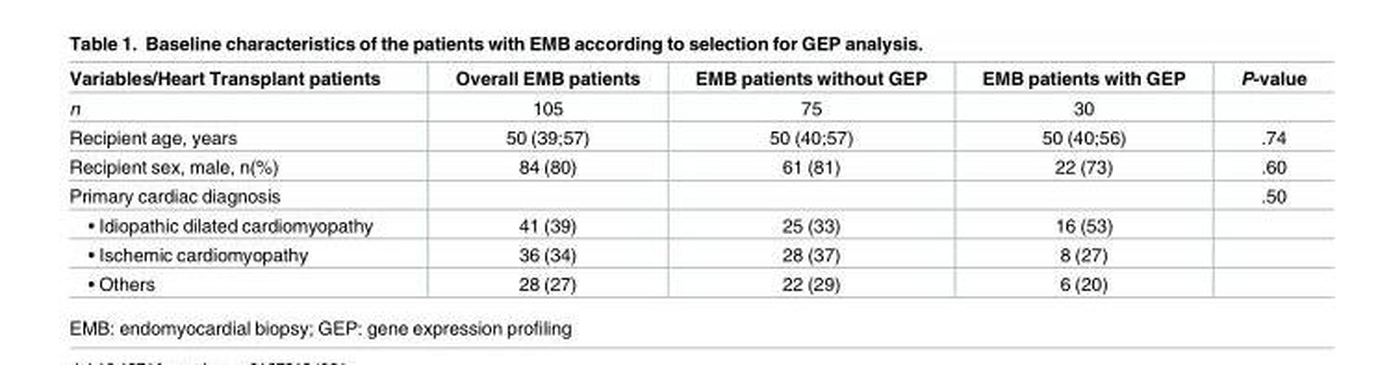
<table><thead><tr><td>Variables/Heart Transplant patients</td><td>Overall EMB patients</td><td>EMB patients without GEP</td><td>EMB patients with GEP</td><td>P-value</td></tr></thead><tbody><tr><td>n</td><td>105</td><td>75</td><td>30</td><td></td></tr><tr><td>Recipient age, years</td><td>50 (39;57)</td><td>50 (40;57)</td><td>50 (40;56)</td><td>.74</td></tr><tr><td>Recipient sex, male, n(%)</td><td>84 (80)</td><td>61 (81)</td><td>22 (73)</td><td>.60</td></tr><tr><td>Primary cardiac diagnosis</td><td></td><td></td><td></td><td>.50</td></tr><tr><td>• Idiopathic dilated cardiomyopathy</td><td>41 (39)</td><td>25 (33)</td><td>16 (53)</td><td></td></tr><tr><td>• Ischemic cardiomyopathy</td><td>36 (34)</td><td>28 (37)</td><td>8 (27)</td><td></td></tr><tr><td>• Others</td><td>28 (27)</td><td>22 (29)</td><td>6 (20)</td><td></td></tr></tbody></table>